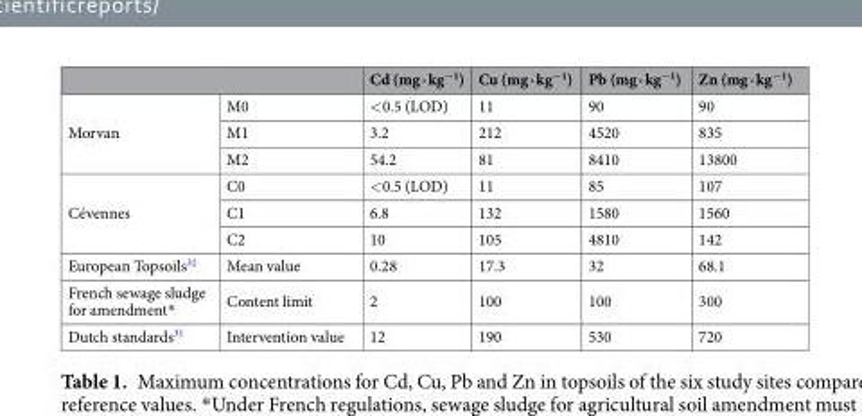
<table><thead><tr><td></td><td></td><td>Cd (mg · kg<sup>−1</sup>)</td><td>Cu (mg · kg<sup>−1</sup>)</td><td>Pb (mg · kg<sup>−1</sup>)</td><td>Zn (mg · kg<sup>−1</sup>)</td></tr></thead><tbody><tr><td rowspan="3">Morvan</td><td>M0</td><td>&lt;0.5 (LOD)</td><td>11</td><td>90</td><td>90</td></tr><tr><td>M1</td><td>3.2</td><td>212</td><td>4520</td><td>835</td></tr><tr><td>M2</td><td>54.2</td><td>81</td><td>8410</td><td>13800</td></tr><tr><td rowspan="3">Cévennes</td><td>C0</td><td>&lt;0.5 (LOD)</td><td>11</td><td>85</td><td>107</td></tr><tr><td>C1</td><td>6.8</td><td>132</td><td>1580</td><td>1560</td></tr><tr><td>C2</td><td>10</td><td>105</td><td>4810</td><td>142</td></tr><tr><td>European Topsoils<sup>32</sup></td><td>Mean value</td><td>0.28</td><td>17.3</td><td>32</td><td>68.1</td></tr><tr><td>French sewage sludge for amendment*</td><td>Content limit</td><td>2</td><td>100</td><td>100</td><td>300</td></tr><tr><td>Dutch standards<sup>31</sup></td><td>Intervention value</td><td>12</td><td>190</td><td>530</td><td>720</td></tr></tbody></table>